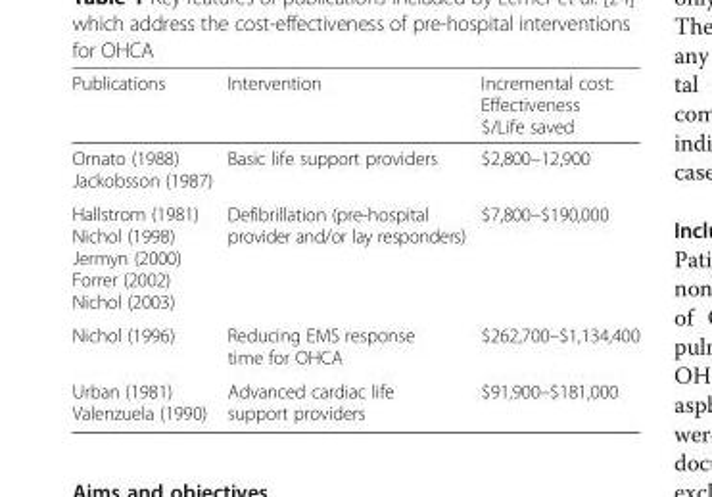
<table><thead><tr><td>Publications</td><td>Intervention</td><td>Incremental cost: Effectiveness $/Life saved</td></tr></thead><tbody><tr><td>Ornato (1988) Jackobsson (1987)</td><td>Basic life support providers</td><td>$2,800–12,900</td></tr><tr><td>Hallstrom (1981) Nichol (1998) Jermyn (2000) Forrer (2002) Nichol (2003)</td><td>Defibrillation (pre-hospital provider and/or lay responders)</td><td>$7,800–$190,000</td></tr><tr><td>Nichol (1996)</td><td>Reducing EMS response time for OHCA</td><td>$262,700–$1,134,400</td></tr><tr><td>Urban (1981) Valenzuela (1990)</td><td>Advanced cardiac life support providers</td><td>$91,900–$181,000</td></tr></tbody></table>